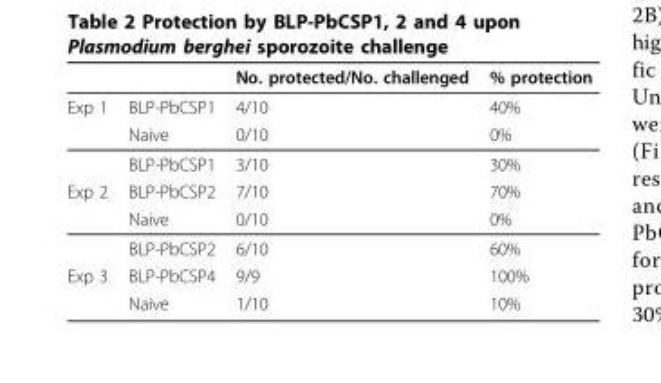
<table><thead><tr><td></td><td></td><td>No. protected/No. challenged</td><td>% protection</td></tr></thead><tbody><tr><td rowspan="3">Exp 1</td><td>BLP-PbCSP1</td><td>4/10</td><td>40%</td></tr><tr><td>Naive</td><td>0/10</td><td>0%</td></tr><tr><td>BLP-PbCSP1</td><td>3/10</td><td>30%</td></tr><tr><td rowspan="3">Exp 2</td><td>BLP-PbCSP2</td><td>7/10</td><td>70%</td></tr><tr><td>Naive</td><td>0/10</td><td>0%</td></tr><tr><td>BLP-PbCSP2</td><td>6/10</td><td>60%</td></tr><tr><td rowspan="2">Exp 3</td><td>BLP-PbCSP4</td><td>9/9</td><td>100%</td></tr><tr><td>Naive</td><td>1/10</td><td>10%</td></tr></tbody></table>